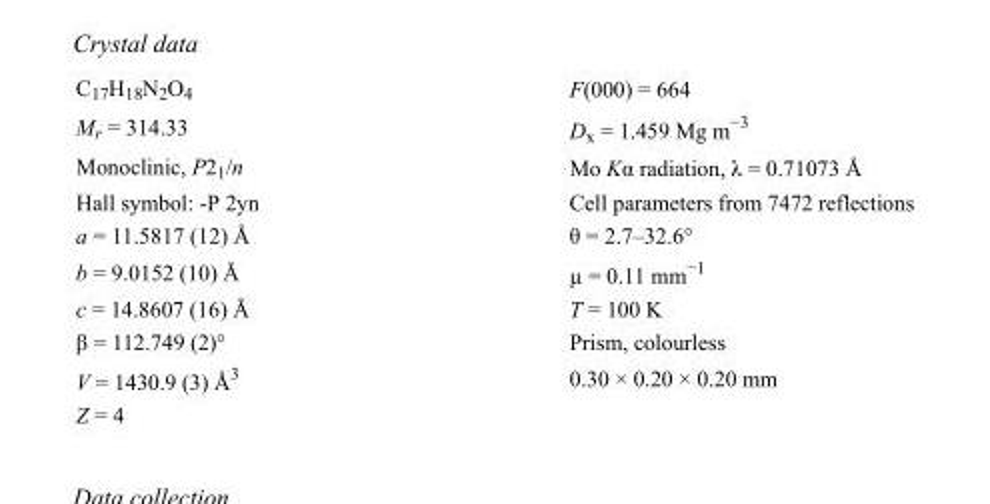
<table><tbody><tr><td>C<sub>17</sub>H<sub>18</sub>N<sub>2</sub>O<sub>4</sub></td><td>F(000) = 664</td></tr><tr><td>M<sub>r</sub> = 314.33</td><td>D<sub>x</sub> = 1.459 Mg m<sup>−3</sup></td></tr><tr><td>Monoclinic, P2<sub>1</sub>/n</td><td>Mo Kα radiation, λ = 0.71073 Å</td></tr><tr><td>Hall symbol: -P 2yn</td><td>Cell parameters from 7472 reflections</td></tr><tr><td>a = 11.5817 (12) Å</td><td>θ = 2.7–32.6°</td></tr><tr><td>b = 9.0152 (10) Å</td><td>µ = 0.11 mm<sup>−1</sup></td></tr><tr><td>c = 14.8607 (16) Å</td><td>T = 100 K</td></tr><tr><td>β = 112.749 (2)°</td><td>Prism, colourless</td></tr><tr><td>V = 1430.9 (3) Å<sup>3</sup></td><td>0.30 × 0.20 × 0.20 mm</td></tr><tr><td>Z = 4</td><td></td></tr></tbody></table>